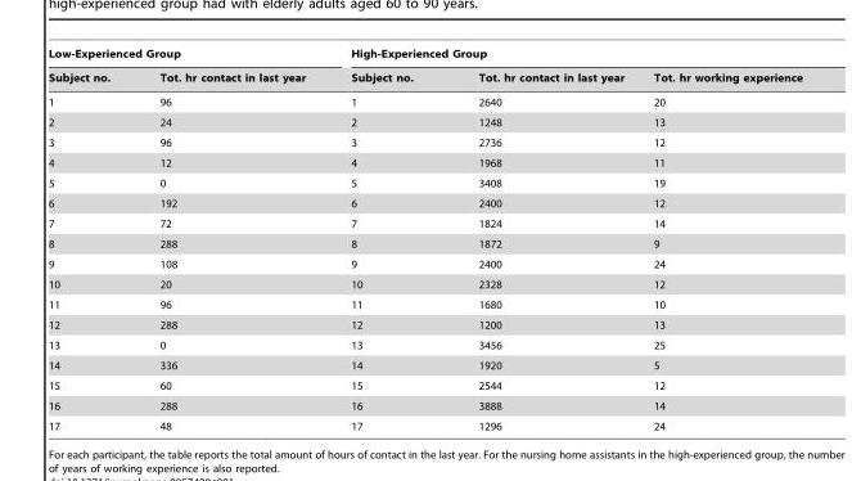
<table><thead><tr><td colspan="2">Low-Experienced Group</td><td colspan="3">High-Experienced Group</td></tr><tr><td>Subject no.</td><td>Tot. hr contact in last year</td><td>Subject no.</td><td>Tot. hr contact in last year</td><td>Tot. hr working experience</td></tr></thead><tbody><tr><td>1</td><td>96</td><td>1</td><td>2640</td><td>20</td></tr><tr><td>2</td><td>24</td><td>2</td><td>1248</td><td>13</td></tr><tr><td>3</td><td>96</td><td>3</td><td>2736</td><td>12</td></tr><tr><td>4</td><td>12</td><td>4</td><td>1968</td><td>11</td></tr><tr><td>5</td><td>0</td><td>5</td><td>3408</td><td>19</td></tr><tr><td>6</td><td>192</td><td>6</td><td>2400</td><td>12</td></tr><tr><td>7</td><td>72</td><td>7</td><td>1824</td><td>14</td></tr><tr><td>8</td><td>288</td><td>8</td><td>1872</td><td>9</td></tr><tr><td>9</td><td>108</td><td>9</td><td>2400</td><td>24</td></tr><tr><td>10</td><td>20</td><td>10</td><td>2328</td><td>12</td></tr><tr><td>11</td><td>96</td><td>11</td><td>1680</td><td>10</td></tr><tr><td>12</td><td>288</td><td>12</td><td>1200</td><td>13</td></tr><tr><td>13</td><td>0</td><td>13</td><td>3456</td><td>25</td></tr><tr><td>14</td><td>336</td><td>14</td><td>1920</td><td>5</td></tr><tr><td>15</td><td>60</td><td>15</td><td>2544</td><td>12</td></tr><tr><td>16</td><td>288</td><td>16</td><td>3888</td><td>14</td></tr><tr><td>17</td><td>48</td><td>17</td><td>1296</td><td>24</td></tr></tbody></table>